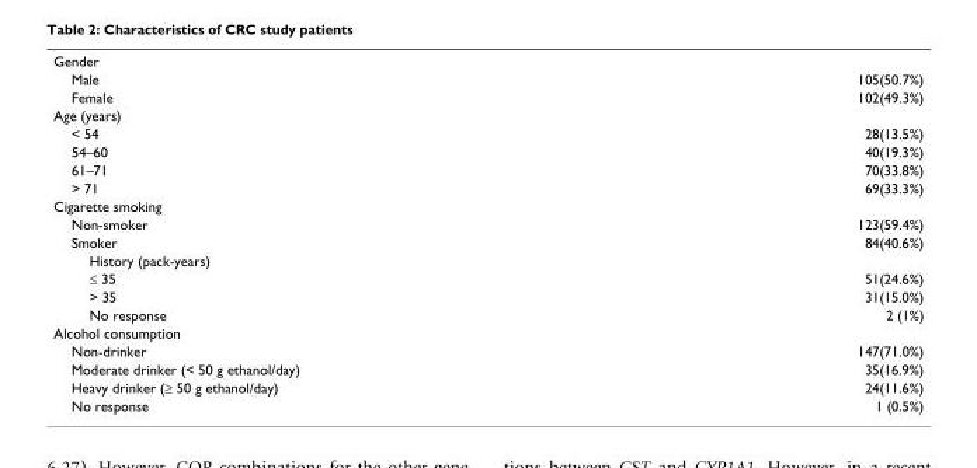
<table><tbody><tr><td colspan="2">Gender</td></tr><tr><td>Male</td><td>105(50.7%)</td></tr><tr><td>Female</td><td>102(49.3%)</td></tr><tr><td colspan="2">Age (years)</td></tr><tr><td>&lt; 54</td><td>28(13.5%)</td></tr><tr><td>54–60</td><td>40(19.3%)</td></tr><tr><td>61–71</td><td>70(33.8%)</td></tr><tr><td>&gt; 71</td><td>69(33.3%)</td></tr><tr><td colspan="2">Cigarette smoking</td></tr><tr><td>Non-smoker</td><td>123(59.4%)</td></tr><tr><td>Smoker</td><td>84(40.6%)</td></tr><tr><td colspan="2">History (pack-years)</td></tr><tr><td>≤ 35</td><td>51(24.6%)</td></tr><tr><td>&gt; 35</td><td>31(15.0%)</td></tr><tr><td>No response</td><td>2 (1%)</td></tr><tr><td colspan="2">Alcohol consumption</td></tr><tr><td>Non-drinker</td><td>147(71.0%)</td></tr><tr><td>Moderate drinker (&lt; 50 g ethanol/day)</td><td>35(16.9%)</td></tr><tr><td>Heavy drinker (≥ 50 g ethanol/day)</td><td>24(11.6%)</td></tr><tr><td>No response</td><td>1 (0.5%)</td></tr></tbody></table>